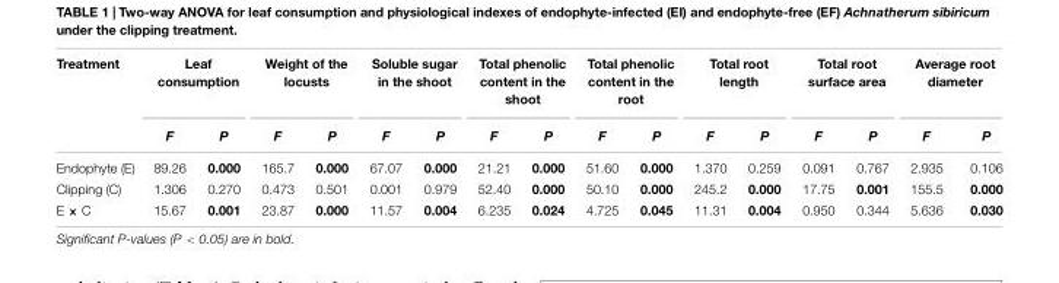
<table><thead><tr><td rowspan="2">Treatment</td><td colspan="2">Leaf consumption</td><td colspan="2">Weight of the locusts</td><td colspan="2">Soluble sugar in the shoot</td><td colspan="2">Total phenolic content in the shoot</td><td colspan="2">Total phenolic content in the root</td><td colspan="2">Total root length</td><td colspan="2">Total root surface area</td><td colspan="2">Average root diameter</td></tr><tr><td>F</td><td>P</td><td>F</td><td>P</td><td>F</td><td>P</td><td>F</td><td>P</td><td>F</td><td>P</td><td>F</td><td>P</td><td>F</td><td>P</td><td>F</td><td>P</td></tr></thead><tbody><tr><td>Endophyte (E)</td><td>89.26</td><td>0.000</td><td>165.7</td><td>0.000</td><td>67.07</td><td>0.000</td><td>21.21</td><td>0.000</td><td>51.60</td><td>0.000</td><td>1.370</td><td>0.259</td><td>0.091</td><td>0.767</td><td>2.935</td><td>0.106</td></tr><tr><td>Clipping (C)</td><td>1.306</td><td>0.270</td><td>0.473</td><td>0.501</td><td>0.001</td><td>0.979</td><td>52.40</td><td>0.000</td><td>50.10</td><td>0.000</td><td>245.2</td><td>0.000</td><td>17.75</td><td>0.001</td><td>155.5</td><td>0.000</td></tr><tr><td>E × C</td><td>15.67</td><td>0.001</td><td>23.87</td><td>0.000</td><td>11.57</td><td>0.004</td><td>6.235</td><td>0.024</td><td>4.725</td><td>0.045</td><td>11.31</td><td>0.004</td><td>0.950</td><td>0.344</td><td>5.636</td><td>0.030</td></tr></tbody></table>